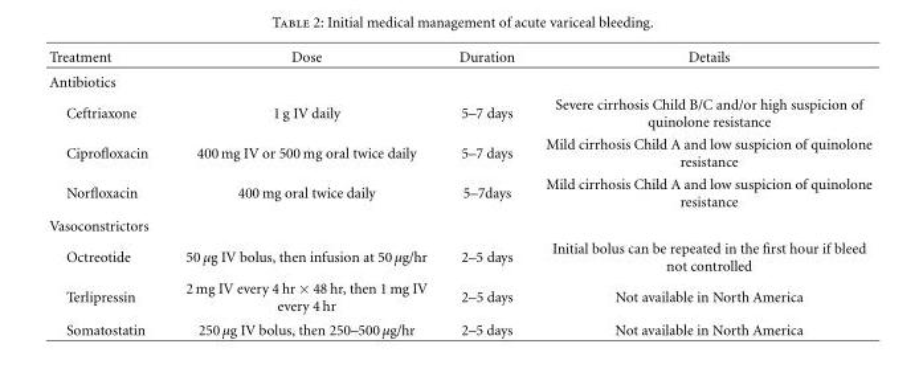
<table><thead><tr><td>Treatment</td><td>Dose</td><td>Duration</td><td>Details</td></tr></thead><tbody><tr><td colspan="4">Antibiotics</td></tr><tr><td>Ceftriaxone</td><td>1 g IV daily</td><td>5–7 days</td><td>Severe cirrhosis Child B/C and/or high suspicion of quinolone resistance</td></tr><tr><td>Ciprofloxacin</td><td>400 mg IV or 500 mg oral twice daily</td><td>5–7 days</td><td>Mild cirrhosis Child A and low suspicion of quinolone resistance</td></tr><tr><td>Norfloxacin</td><td>400 mg oral twice daily</td><td>5–7days</td><td>Mild cirrhosis Child A and low suspicion of quinolone resistance</td></tr><tr><td colspan="4">Vasoconstrictors</td></tr><tr><td>Octreotide</td><td>50 μg IV bolus, then infusion at 50 μg/hr</td><td>2–5 days</td><td>Initial bolus can be repeated in the first hour if bleed not controlled</td></tr><tr><td>Terlipressin</td><td>2 mg IV every 4 hr × 48 hr, then 1 mg IV every 4 hr</td><td>2–5 days</td><td>Not available in North America</td></tr><tr><td>Somatostatin</td><td>250 μg IV bolus, then 250–500 μg/hr</td><td>2–5 days</td><td>Not available in North America</td></tr></tbody></table>